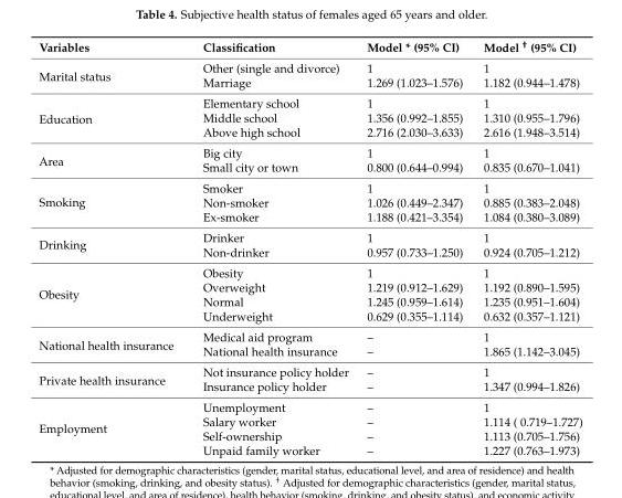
<table><thead><tr><td>Variables</td><td>Classification</td><td>Model * (95% CI)</td><td>Model <sup>†</sup> (95% CI)</td></tr></thead><tbody><tr><td rowspan="2">Marital status</td><td>Other (single and divorce)</td><td>1</td><td>1</td></tr><tr><td>Marriage</td><td>1.269 (1.023–1.576)</td><td>1.182 (0.944–1.478)</td></tr><tr><td rowspan="3">Education</td><td>Elementary school</td><td>1</td><td>1</td></tr><tr><td>Middle school</td><td>1.356 (0.992–1.855)</td><td>1.310 (0.955–1.796)</td></tr><tr><td>Above high school</td><td>2.716 (2.030–3.633)</td><td>2.616 (1.948–3.514)</td></tr><tr><td rowspan="2">Area</td><td>Big city</td><td>1</td><td>1</td></tr><tr><td>Small city or town</td><td>0.800 (0.644–0.994)</td><td>0.835 (0.670–1.041)</td></tr><tr><td rowspan="3">Smoking</td><td>Smoker</td><td>1</td><td>1</td></tr><tr><td>Non-smoker</td><td>1.026 (0.449–2.347)</td><td>0.885 (0.383–2.048)</td></tr><tr><td>Ex-smoker</td><td>1.188 (0.421–3.354)</td><td>1.084 (0.380–3.089)</td></tr><tr><td rowspan="2">Drinking</td><td>Drinker</td><td>1</td><td>1</td></tr><tr><td>Non-drinker</td><td>0.957 (0.733–1.250)</td><td>0.924 (0.705–1.212)</td></tr><tr><td rowspan="4">Obesity</td><td>Obesity</td><td>1</td><td>1</td></tr><tr><td>Overweight</td><td>1.219 (0.912–1.629)</td><td>1.192 (0.890–1.595)</td></tr><tr><td>Normal</td><td>1.245 (0.959–1.614)</td><td>1.235 (0.951–1.604)</td></tr><tr><td>Underweight</td><td>0.629 (0.355–1.114)</td><td>0.632 (0.357–1.121)</td></tr><tr><td rowspan="2">National health insurance</td><td>Medical aid program</td><td>–</td><td>1</td></tr><tr><td>National health insurance</td><td>–</td><td>1.865 (1.142–3.045)</td></tr><tr><td rowspan="2">Private health insurance</td><td>Not insurance policy holder</td><td>–</td><td>1</td></tr><tr><td>Insurance policy holder</td><td>–</td><td>1.347 (0.994–1.826)</td></tr><tr><td rowspan="4">Employment</td><td>Unemployment</td><td>–</td><td>1</td></tr><tr><td>Salary worker</td><td>–</td><td>1.114 ( 0.719–1.727)</td></tr><tr><td>Self-ownership</td><td>–</td><td>1.113 (0.705–1.756)</td></tr><tr><td>Unpaid family worker</td><td>–</td><td>1.227 (0.763–1.973)</td></tr></tbody></table>